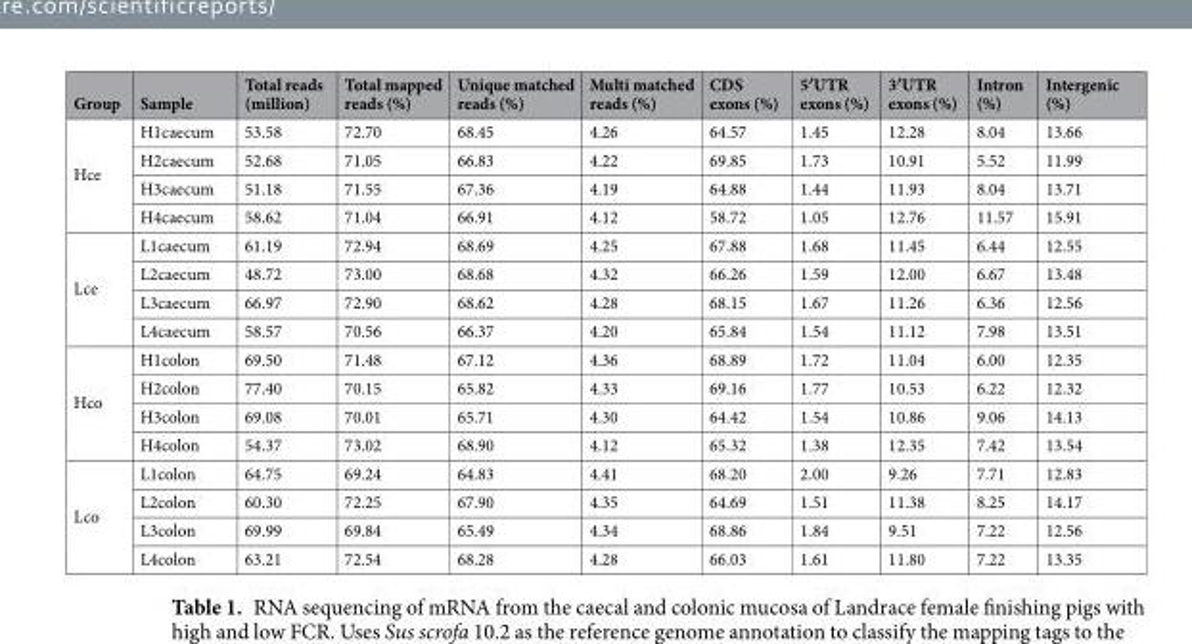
<table><thead><tr><td>Group</td><td>Sample</td><td>Total reads (million)</td><td>Total mapped reads (%)</td><td>Unique matched reads (%)</td><td>Multi matched reads (%)</td><td>CDS exons (%)</td><td>5′UTR exons (%)</td><td>3′UTR exons (%)</td><td>Intron (%)</td><td>Intergenic (%)</td></tr></thead><tbody><tr><td rowspan="4">Hce</td><td>H1caecum</td><td>53.58</td><td>72.70</td><td>68.45</td><td>4.26</td><td>64.57</td><td>1.45</td><td>12.28</td><td>8.04</td><td>13.66</td></tr><tr><td>H2caecum</td><td>52.68</td><td>71.05</td><td>66.83</td><td>4.22</td><td>69.85</td><td>1.73</td><td>10.91</td><td>5.52</td><td>11.99</td></tr><tr><td>H3caecum</td><td>51.18</td><td>71.55</td><td>67.36</td><td>4.19</td><td>64.88</td><td>1.44</td><td>11.93</td><td>8.04</td><td>13.71</td></tr><tr><td>H4caecum</td><td>58.62</td><td>71.04</td><td>66.91</td><td>4.12</td><td>58.72</td><td>1.05</td><td>12.76</td><td>11.57</td><td>15.91</td></tr><tr><td rowspan="4">Lce</td><td>L1caecum</td><td>61.19</td><td>72.94</td><td>68.69</td><td>4.25</td><td>67.88</td><td>1.68</td><td>11.45</td><td>6.44</td><td>12.55</td></tr><tr><td>L2caecum</td><td>48.72</td><td>73.00</td><td>68.68</td><td>4.32</td><td>66.26</td><td>1.59</td><td>12.00</td><td>6.67</td><td>13.48</td></tr><tr><td>L3caecum</td><td>66.97</td><td>72.90</td><td>68.62</td><td>4.28</td><td>68.15</td><td>1.67</td><td>11.26</td><td>6.36</td><td>12.56</td></tr><tr><td>L4caecum</td><td>58.57</td><td>70.56</td><td>66.37</td><td>4.20</td><td>65.84</td><td>1.54</td><td>11.12</td><td>7.98</td><td>13.51</td></tr><tr><td rowspan="4">Hco</td><td>H1colon</td><td>69.50</td><td>71.48</td><td>67.12</td><td>4.36</td><td>68.89</td><td>1.72</td><td>11.04</td><td>6.00</td><td>12.35</td></tr><tr><td>H2colon</td><td>77.40</td><td>70.15</td><td>65.82</td><td>4.33</td><td>69.16</td><td>1.77</td><td>10.53</td><td>6.22</td><td>12.32</td></tr><tr><td>H3colon</td><td>69.08</td><td>70.01</td><td>65.71</td><td>4.30</td><td>64.42</td><td>1.54</td><td>10.86</td><td>9.06</td><td>14.13</td></tr><tr><td>H4colon</td><td>54.37</td><td>73.02</td><td>68.90</td><td>4.12</td><td>65.32</td><td>1.38</td><td>12.35</td><td>7.42</td><td>13.54</td></tr><tr><td rowspan="4">Lco</td><td>L1colon</td><td>64.75</td><td>69.24</td><td>64.83</td><td>4.41</td><td>68.20</td><td>2.00</td><td>9.26</td><td>7.71</td><td>12.83</td></tr><tr><td>L2colon</td><td>60.30</td><td>72.25</td><td>67.90</td><td>4.35</td><td>64.69</td><td>1.51</td><td>11.38</td><td>8.25</td><td>14.17</td></tr><tr><td>L3colon</td><td>69.99</td><td>69.84</td><td>65.49</td><td>4.34</td><td>68.86</td><td>1.84</td><td>9.51</td><td>7.22</td><td>12.56</td></tr><tr><td>L4colon</td><td>63.21</td><td>72.54</td><td>68.28</td><td>4.28</td><td>66.03</td><td>1.61</td><td>11.80</td><td>7.22</td><td>13.35</td></tr></tbody></table>